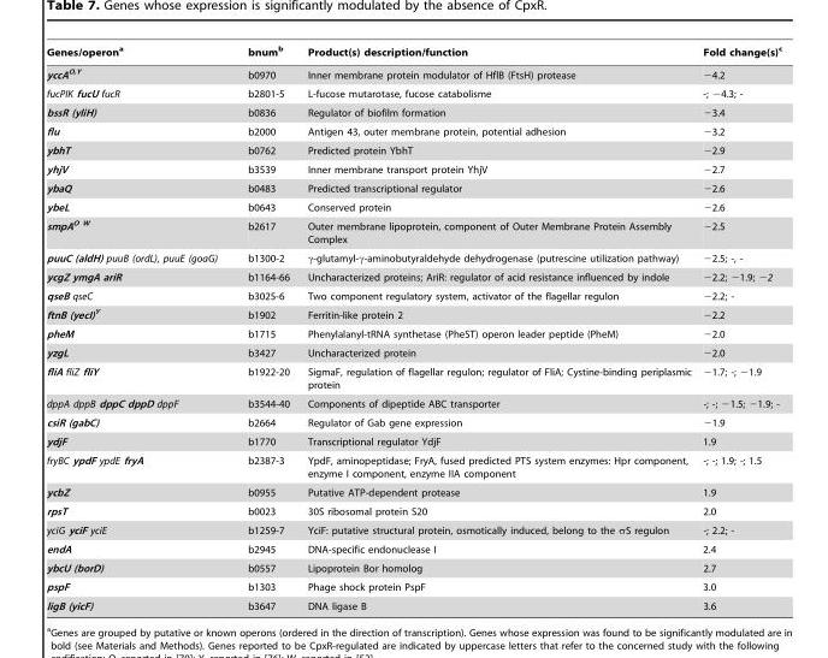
<table><thead><tr><td>Genes/operon<sup>a</sup></td><td>bnum<sup>b</sup></td><td>Product(s) description/function</td><td>Fold change(s)<sup>c</sup></td></tr></thead><tbody><tr><td>yccA<sup>O,Y</sup></td><td>b0970</td><td>Inner membrane protein modulator of HflB (FtsH) protease</td><td>−4.2</td></tr><tr><td>fucPIK fucU fucR</td><td>b2801-5</td><td>L-fucose mutarotase, fucose catabolisme</td><td>-; −4.3; -</td></tr><tr><td>bssR (yliH)</td><td>b0836</td><td>Regulator of biofilm formation</td><td>−3.4</td></tr><tr><td>flu</td><td>b2000</td><td>Antigen 43, outer membrane protein, potential adhesion</td><td>−3.2</td></tr><tr><td>ybhT</td><td>b0762</td><td>Predicted protein YbhT</td><td>−2.9</td></tr><tr><td>yhjV</td><td>b3539</td><td>Inner membrane transport protein YhjV</td><td>−2.7</td></tr><tr><td>ybaQ</td><td>b0483</td><td>Predicted transcriptional regulator</td><td>−2.6</td></tr><tr><td>ybeL</td><td>b0643</td><td>Conserved protein</td><td>−2.6</td></tr><tr><td>smpA<sup>O W</sup></td><td>b2617</td><td>Outer membrane lipoprotein, component of Outer Membrane Protein Assembly Complex</td><td>−2.5</td></tr><tr><td>puuC (aldH) puuB (ordL), puuE (goaG)</td><td>b1300-2</td><td>γ-glutamyl-γ-aminobutyraldehyde dehydrogenase (putrescine utilization pathway)</td><td>−2.5; -, -</td></tr><tr><td>ycgZ ymgA ariR</td><td>b1164-66</td><td>Uncharacterized proteins; AriR: regulator of acid resistance influenced by indole</td><td>−2.2; −1.9; −2</td></tr><tr><td>qseB qseC</td><td>b3025-6</td><td>Two component regulatory system, activator of the flagellar regulon</td><td>−2.2; -</td></tr><tr><td>ftnB (yecI)<sup>Y</sup></td><td>b1902</td><td>Ferritin-like protein 2</td><td>−2.2</td></tr><tr><td>pheM</td><td>b1715</td><td>Phenylalanyl-tRNA synthetase (PheST) operon leader peptide (PheM)</td><td>−2.0</td></tr><tr><td>yzgL</td><td>b3427</td><td>Uncharacterized protein</td><td>−2.0</td></tr><tr><td>fliA fliZ fliY</td><td>b1922-20</td><td>SigmaF, regulation of flagellar regulon; regulator of FliA; Cystine-binding periplasmic protein</td><td>−1.7; -; −1.9</td></tr><tr><td>dppA dppB dppC dppD dppF</td><td>b3544-40</td><td>Components of dipeptide ABC transporter</td><td>-; -; −1.5; −1.9; -</td></tr><tr><td>csiR (gabC)</td><td>b2664</td><td>Regulator of Gab gene expression</td><td>−1.9</td></tr><tr><td>ydjF</td><td>b1770</td><td>Transcriptional regulator YdjF</td><td>1.9</td></tr><tr><td>fryBC ypdF ypdE fryA</td><td>b2387-3</td><td>YpdF, aminopeptidase; FryA, fused predicted PTS system enzymes: Hpr component, enzyme I component, enzyme IIA component</td><td>-; -; 1.9; -; 1.5</td></tr><tr><td>ycbZ</td><td>b0955</td><td>Putative ATP-dependent protease</td><td>1.9</td></tr><tr><td>rpsT</td><td>b0023</td><td>30S ribosomal protein S20</td><td>2.0</td></tr><tr><td>yciG yciF yciE</td><td>b1259-7</td><td>YciF: putative structural protein, osmotically induced, belong to the σS regulon</td><td>-; 2.2; -</td></tr><tr><td>endA</td><td>b2945</td><td>DNA-specific endonuclease I</td><td>2.4</td></tr><tr><td>ybcU (borD)</td><td>b0557</td><td>Lipoprotein Bor homolog</td><td>2.7</td></tr><tr><td>pspF</td><td>b1303</td><td>Phage shock protein PspF</td><td>3.0</td></tr><tr><td>ligB (yicF)</td><td>b3647</td><td>DNA ligase B</td><td>3.6</td></tr></tbody></table>